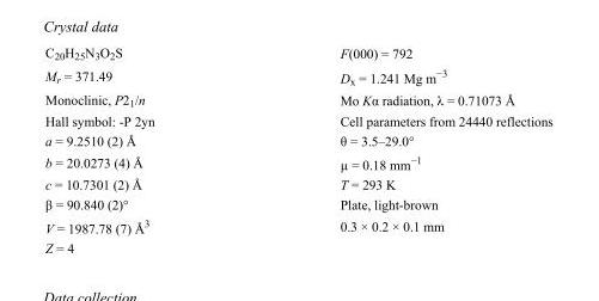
<table><tbody><tr><td>C<sub>20</sub>H<sub>25</sub>N<sub>3</sub>O<sub>2</sub>S</td><td>F(000) = 792</td></tr><tr><td>M<sub>r</sub> = 371.49</td><td>D<sub>x</sub> = 1.241 Mg m<sup>−3</sup></td></tr><tr><td>Monoclinic, P2<sub>1</sub>/n</td><td>Mo Kα radiation, λ = 0.71073 Å</td></tr><tr><td>Hall symbol: -P 2yn</td><td>Cell parameters from 24440 reflections</td></tr><tr><td>a = 9.2510 (2) Å</td><td>θ = 3.5–29.0°</td></tr><tr><td>b = 20.0273 (4) Å</td><td>µ = 0.18 mm<sup>−1</sup></td></tr><tr><td>c = 10.7301 (2) Å</td><td>T = 293 K</td></tr><tr><td>β = 90.840 (2)°</td><td>Plate, light-brown</td></tr><tr><td>V = 1987.78 (7) Å<sup>3</sup></td><td>0.3 × 0.2 × 0.1 mm</td></tr><tr><td>Z = 4</td><td></td></tr></tbody></table>